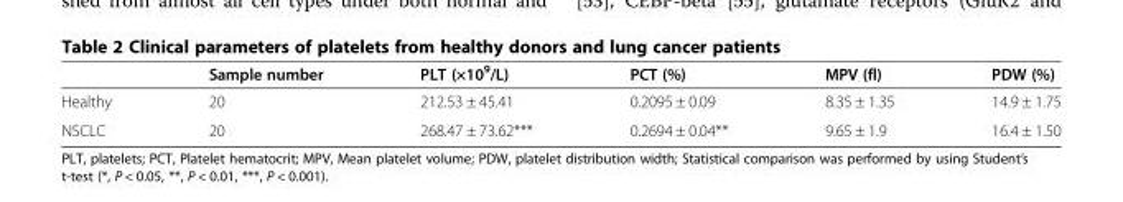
<table><thead><tr><td></td><td>Sample number</td><td>PLT (×10<sup>9</sup>/L)</td><td>PCT (%)</td><td>MPV (fl)</td><td>PDW (%)</td></tr></thead><tbody><tr><td>Healthy</td><td>20</td><td>212.53 ± 45.41</td><td>0.2095 ± 0.09</td><td>8.35 ± 1.35</td><td>14.9 ± 1.75</td></tr><tr><td>NSCLC</td><td>20</td><td>268.47 ± 73.62***</td><td>0.2694 ± 0.04**</td><td>9.65 ± 1.9</td><td>16.4 ± 1.50</td></tr></tbody></table>